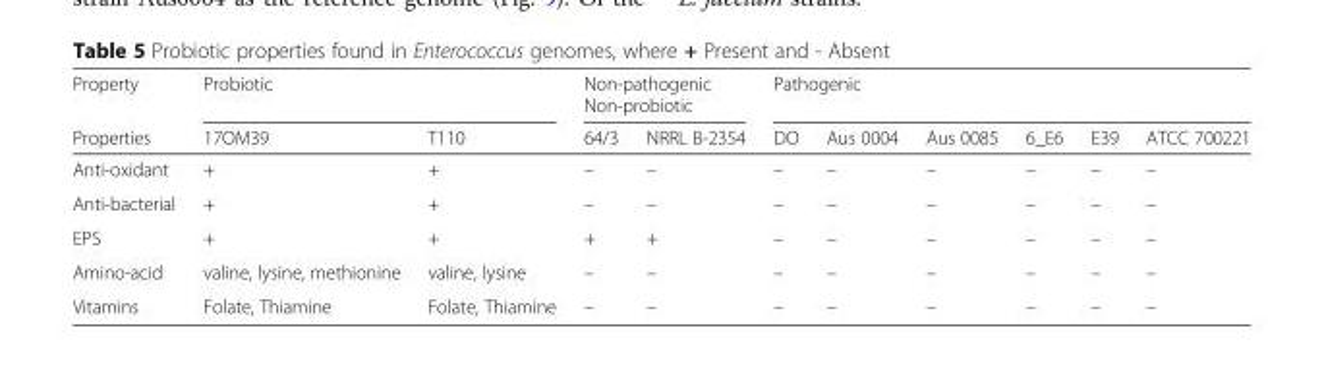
<table><thead><tr><td rowspan="2">Property Properties</td><td colspan="2">Probiotic</td><td colspan="2">Non-pathogenic Non-probiotic</td><td colspan="6">Pathogenic</td></tr><tr><td>17OM39</td><td>T110</td><td>64/3</td><td>NRRL B-2354</td><td>DO</td><td>Aus 0004</td><td>Aus 0085</td><td>6_E6</td><td>E39</td><td>ATCC 700221</td></tr></thead><tbody><tr><td>Anti-oxidant</td><td>+</td><td>+</td><td>–</td><td>–</td><td>–</td><td>–</td><td>–</td><td>–</td><td>–</td><td>–</td></tr><tr><td>Anti-bacterial</td><td>+</td><td>+</td><td>–</td><td>–</td><td>–</td><td>–</td><td>–</td><td>–</td><td>–</td><td>–</td></tr><tr><td>EPS</td><td>+</td><td>+</td><td>+</td><td>+</td><td>–</td><td>–</td><td>–</td><td>–</td><td>–</td><td>–</td></tr><tr><td>Amino-acid</td><td>valine, lysine, methionine</td><td>valine, lysine</td><td>–</td><td>–</td><td>–</td><td>–</td><td>–</td><td>–</td><td>–</td><td>–</td></tr><tr><td>Vitamins</td><td>Folate, Thiamine</td><td>Folate, Thiamine</td><td>–</td><td>–</td><td>–</td><td>–</td><td>–</td><td>–</td><td>–</td><td>–</td></tr></tbody></table>